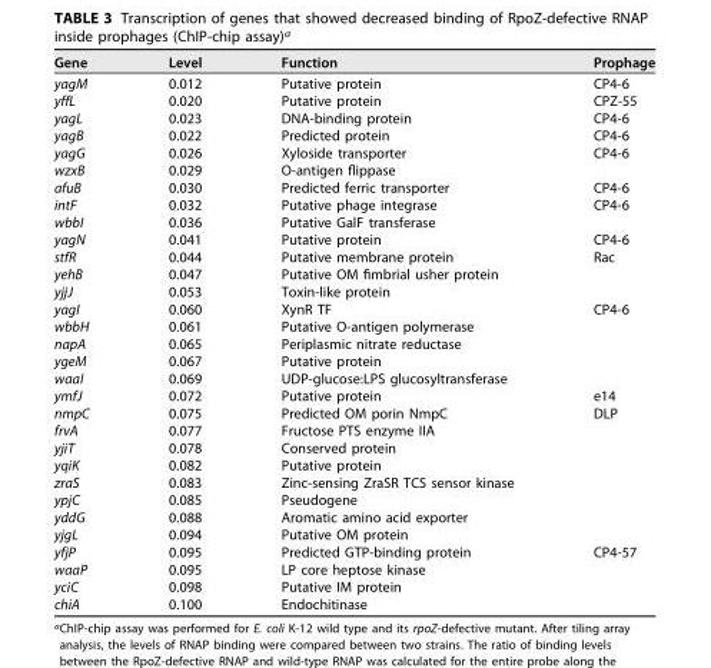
<table><thead><tr><td>Gene</td><td>Level</td><td>Function</td><td>Prophage</td></tr></thead><tbody><tr><td>yagM</td><td>0.012</td><td>Putative protein</td><td>CP4-6</td></tr><tr><td>yffL</td><td>0.020</td><td>Putative protein</td><td>CPZ-55</td></tr><tr><td>yagL</td><td>0.023</td><td>DNA-binding protein</td><td>CP4-6</td></tr><tr><td>yagB</td><td>0.022</td><td>Predicted protein</td><td>CP4-6</td></tr><tr><td>yagG</td><td>0.026</td><td>Xyloside transporter</td><td>CP4-6</td></tr><tr><td>wzxB</td><td>0.029</td><td>O-antigen flippase</td><td></td></tr><tr><td>afuB</td><td>0.030</td><td>Predicted ferric transporter</td><td>CP4-6</td></tr><tr><td>intF</td><td>0.032</td><td>Putative phage integrase</td><td>CP4-6</td></tr><tr><td>wbbI</td><td>0.036</td><td>Putative GalF transferase</td><td></td></tr><tr><td>yagN</td><td>0.041</td><td>Putative protein</td><td>CP4-6</td></tr><tr><td>stfR</td><td>0.044</td><td>Putative membrane protein</td><td>Rac</td></tr><tr><td>yehB</td><td>0.047</td><td>Putative OM fimbrial usher protein</td><td></td></tr><tr><td>yjjJ</td><td>0.053</td><td>Toxin-like protein</td><td></td></tr><tr><td>yagI</td><td>0.060</td><td>XynR TF</td><td>CP4-6</td></tr><tr><td>wbbH</td><td>0.061</td><td>Putative O-antigen polymerase</td><td></td></tr><tr><td>napA</td><td>0.065</td><td>Periplasmic nitrate reductase</td><td></td></tr><tr><td>ygeM</td><td>0.067</td><td>Putative protein</td><td></td></tr><tr><td>waaI</td><td>0.069</td><td>UDP-glucose:LPS glucosyltransferase</td><td></td></tr><tr><td>ymfJ</td><td>0.072</td><td>Putative protein</td><td>e14</td></tr><tr><td>nmpC</td><td>0.075</td><td>Predicted OM porin NmpC</td><td>DLP</td></tr><tr><td>frvA</td><td>0.077</td><td>Fructose PTS enzyme IIA</td><td></td></tr><tr><td>yjiT</td><td>0.078</td><td>Conserved protein</td><td></td></tr><tr><td>yqiK</td><td>0.082</td><td>Putative protein</td><td></td></tr><tr><td>zraS</td><td>0.083</td><td>Zinc-sensing ZraSR TCS sensor kinase</td><td></td></tr><tr><td>ypjC</td><td>0.085</td><td>Pseudogene</td><td></td></tr><tr><td>yddG</td><td>0.088</td><td>Aromatic amino acid exporter</td><td></td></tr><tr><td>yjgL</td><td>0.094</td><td>Putative OM protein</td><td></td></tr><tr><td>yfjP</td><td>0.095</td><td>Predicted GTP-binding protein</td><td>CP4-57</td></tr><tr><td>waaP</td><td>0.095</td><td>LP core heptose kinase</td><td></td></tr><tr><td>yciC</td><td>0.098</td><td>Putative IM protein</td><td></td></tr><tr><td>chiA</td><td>0.100</td><td>Endochitinase</td><td></td></tr></tbody></table>